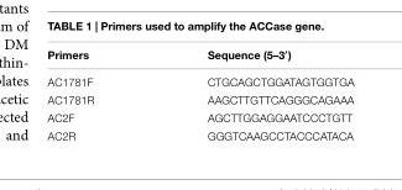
<table><thead><tr><td>Primers</td><td>Sequence (5–3′)</td></tr></thead><tbody><tr><td>AC1781F</td><td>CTGCAGCTGGATAGTGGTGA</td></tr><tr><td>AC1781R</td><td>AAGCTTGTTCAGGGCAGAAA</td></tr><tr><td>AC2F</td><td>AGCTTGGAGGAATCCCTGTT</td></tr><tr><td>AC2R</td><td>GGGTCAAGCCTACCCATACA</td></tr></tbody></table>